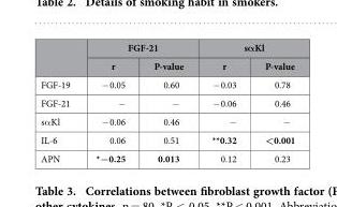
<table><thead><tr><td rowspan="2"></td><td colspan="2">FGF-21</td><td colspan="2">sαKl</td></tr><tr><td>r</td><td>P-value</td><td>r</td><td>P-value</td></tr></thead><tbody><tr><td>FGF-19</td><td>− 0.05</td><td>0.60</td><td>− 0.03</td><td>0.78</td></tr><tr><td>FGF-21</td><td>−</td><td>−</td><td>− 0.06</td><td>0.46</td></tr><tr><td>sα Kl</td><td>− 0.06</td><td>0.46</td><td>−</td><td>−</td></tr><tr><td>IL-6</td><td>0.06</td><td>0.51</td><td>**0.32</td><td>&lt;0.001</td></tr><tr><td>APN</td><td>*−0.25</td><td>0.013</td><td>0.12</td><td>0.23</td></tr></tbody></table>